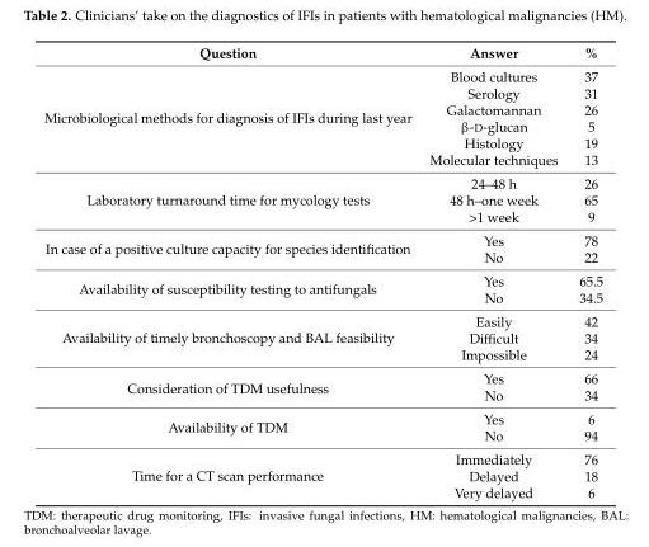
<table><thead><tr><td>Question</td><td>Answer</td><td>%</td></tr></thead><tbody><tr><td rowspan="6">Microbiological methods for diagnosis of IFIs during last year</td><td>Blood cultures</td><td>37</td></tr><tr><td>Serology</td><td>31</td></tr><tr><td>Galactomannan</td><td>26</td></tr><tr><td>β-D-glucan</td><td>5</td></tr><tr><td>Histology</td><td>19</td></tr><tr><td>Molecular techniques</td><td>13</td></tr><tr><td rowspan="3">Laboratory turnaround time for mycology tests</td><td>24–48 h</td><td>26</td></tr><tr><td>48 h–one week</td><td>65</td></tr><tr><td>&gt;1 week</td><td>9</td></tr><tr><td rowspan="2">In case of a positive culture capacity for species identification</td><td>Yes</td><td>78</td></tr><tr><td>No</td><td>22</td></tr><tr><td rowspan="2">Availability of susceptibility testing to antifungals</td><td>Yes</td><td>65.5</td></tr><tr><td>No</td><td>34.5</td></tr><tr><td rowspan="3">Availability of timely bronchoscopy and BAL feasibility</td><td>Easily</td><td>42</td></tr><tr><td>Difficult</td><td>34</td></tr><tr><td>Impossible</td><td>24</td></tr><tr><td rowspan="2">Consideration of TDM usefulness</td><td>Yes</td><td>66</td></tr><tr><td>No</td><td>34</td></tr><tr><td rowspan="2">Availability of TDM</td><td>Yes</td><td>6</td></tr><tr><td>No</td><td>94</td></tr><tr><td rowspan="3">Time for a CT scan performance</td><td>Immediately</td><td>76</td></tr><tr><td>Delayed</td><td>18</td></tr><tr><td>Very delayed</td><td>6</td></tr></tbody></table>